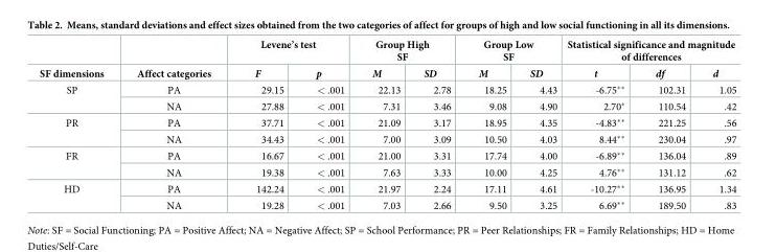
<table><thead><tr><td rowspan="2">SF dimensions</td><td rowspan="2">Affect categories</td><td colspan="2">Levene’s test</td><td colspan="2">Group High SF</td><td colspan="2">Group Low SF</td><td colspan="3">Statistical significance and magnitude of differences</td></tr><tr><td>F</td><td>p</td><td>M</td><td>SD</td><td>M</td><td>SD</td><td>t</td><td>df</td><td>d</td></tr></thead><tbody><tr><td rowspan="2">SP</td><td>PA</td><td>29.15</td><td>&lt; .001</td><td>22.13</td><td>2.78</td><td>18.25</td><td>4.43</td><td>-6.75**</td><td>102.31</td><td>1.05</td></tr><tr><td>NA</td><td>27.88</td><td>&lt; .001</td><td>7.31</td><td>3.46</td><td>9.08</td><td>4.90</td><td>2.70*</td><td>110.54</td><td>.42</td></tr><tr><td rowspan="2">PR</td><td>PA</td><td>37.71</td><td>&lt; .001</td><td>21.09</td><td>3.17</td><td>18.95</td><td>4.35</td><td>-4.83**</td><td>221.25</td><td>.56</td></tr><tr><td>NA</td><td>34.43</td><td>&lt; .001</td><td>7.00</td><td>3.09</td><td>10.50</td><td>4.03</td><td>8.44**</td><td>230.04</td><td>.97</td></tr><tr><td rowspan="2">FR</td><td>PA</td><td>16.67</td><td>&lt; .001</td><td>21.00</td><td>3.31</td><td>17.74</td><td>4.00</td><td>-6.89**</td><td>136.04</td><td>.89</td></tr><tr><td>NA</td><td>19.38</td><td>&lt; .001</td><td>7.63</td><td>3.33</td><td>10.00</td><td>4.25</td><td>4.76**</td><td>131.12</td><td>.62</td></tr><tr><td rowspan="2">HD</td><td>PA</td><td>142.24</td><td>&lt; .001</td><td>21.97</td><td>2.24</td><td>17.11</td><td>4.61</td><td>-10.27**</td><td>136.95</td><td>1.34</td></tr><tr><td>NA</td><td>19.28</td><td>&lt; .001</td><td>7.03</td><td>2.66</td><td>9.50</td><td>3.25</td><td>6.69**</td><td>189.50</td><td>.83</td></tr></tbody></table>